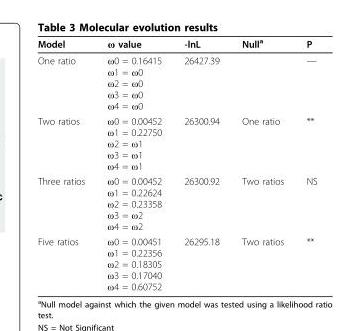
<table><thead><tr><td>Model</td><td>ω value</td><td>-lnL</td><td>Null<sup>a</sup></td><td>P</td></tr></thead><tbody><tr><td>One ratio</td><td>ω0 = 0.16415 ω1 = ω0 ω2 = ω0 ω3 = ω0 ω4 = ω0</td><td>26427.39</td><td></td><td>—</td></tr><tr><td>Two ratios</td><td>ω0 = 0.00452 ω1 = 0.22750 ω2 = ω1 ω3 = ω1 ω4 = ω1</td><td>26300.94</td><td>One ratio</td><td>**</td></tr><tr><td>Three ratios</td><td>ω0 = 0.00452 ω1 = 0.22624 ω2 = 0.23358 ω3 = ω2 ω4 = ω2</td><td>26300.92</td><td>Two ratios</td><td>NS</td></tr><tr><td>Five ratios</td><td>ω0 = 0.00451 ω1 = 0.22356 ω2 = 0.18305 ω3 = 0.17040 ω4 = 0.60752</td><td>26295.18</td><td>Two ratios</td><td>**</td></tr></tbody></table>